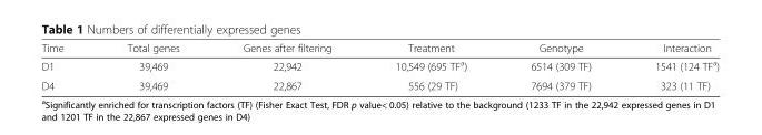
<table><thead><tr><td>Time</td><td>Total genes</td><td>Genes after filtering</td><td>Treatment</td><td>Genotype</td><td>Interaction</td></tr></thead><tbody><tr><td>D1</td><td>39,469</td><td>22,942</td><td>10,549 (695 TF<sup>a</sup>)</td><td>6514 (309 TF)</td><td>1541 (124 TF<sup>a</sup>)</td></tr><tr><td>D4</td><td>39,469</td><td>22,867</td><td>556 (29 TF)</td><td>7694 (379 TF)</td><td>323 (11 TF)</td></tr></tbody></table>